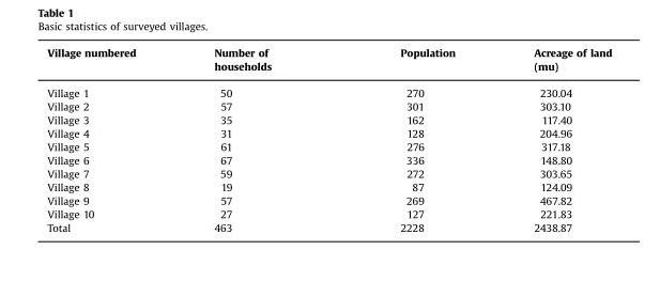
<table><thead><tr><td>Village numbered</td><td>Number of households</td><td>Population</td><td>Acreage of land (mu)</td></tr></thead><tbody><tr><td>Village 1</td><td>50</td><td>270</td><td>230.04</td></tr><tr><td>Village 2</td><td>57</td><td>301</td><td>303.10</td></tr><tr><td>Village 3</td><td>35</td><td>162</td><td>117.40</td></tr><tr><td>Village 4</td><td>31</td><td>128</td><td>204.96</td></tr><tr><td>Village 5</td><td>61</td><td>276</td><td>317.18</td></tr><tr><td>Village 6</td><td>67</td><td>336</td><td>148.80</td></tr><tr><td>Village 7</td><td>59</td><td>272</td><td>303.65</td></tr><tr><td>Village 8</td><td>19</td><td>87</td><td>124.09</td></tr><tr><td>Village 9</td><td>57</td><td>269</td><td>467.82</td></tr><tr><td>Village 10</td><td>27</td><td>127</td><td>221.83</td></tr><tr><td>Total</td><td>463</td><td>2228</td><td>2438.87</td></tr></tbody></table>